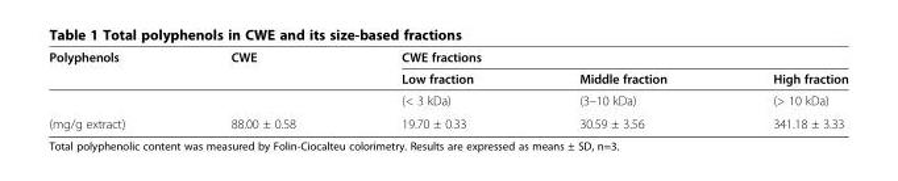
<table><thead><tr><td rowspan="2">Polyphenols</td><td rowspan="2">CWE</td><td colspan="3">CWE fractions</td></tr><tr><td>Low fraction</td><td>Middle fraction</td><td>High fraction</td></tr></thead><tbody><tr><td></td><td></td><td>(&lt; 3 kDa)</td><td>(3–10 kDa)</td><td>(&gt; 10 kDa)</td></tr><tr><td>(mg/g extract)</td><td>88.00 ± 0.58</td><td>19.70 ± 0.33</td><td>30.59 ± 3.56</td><td>341.18 ± 3.33</td></tr></tbody></table>